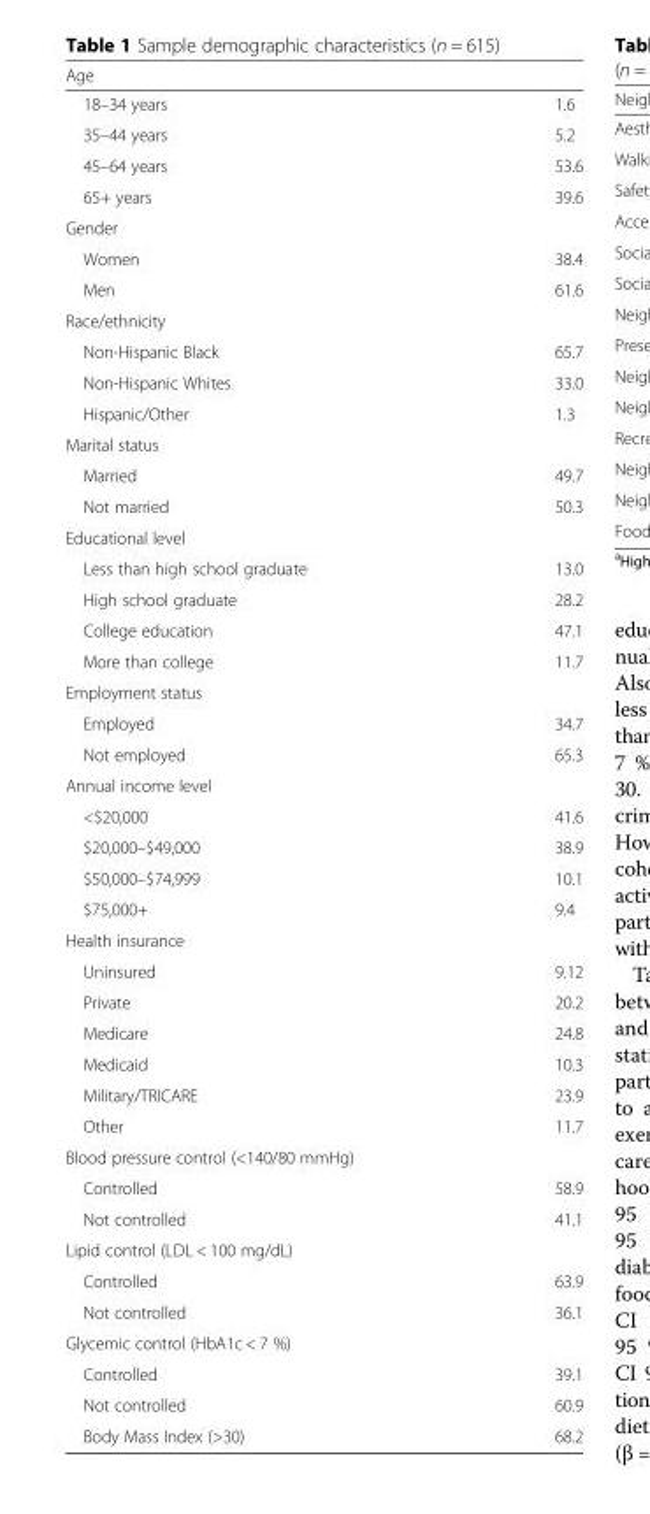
<table><thead><tr><td>Age</td><td></td></tr></thead><tbody><tr><td>18–34 years</td><td>1.6</td></tr><tr><td>35–44 years</td><td>5.2</td></tr><tr><td>45–64 years</td><td>53.6</td></tr><tr><td>65+ years</td><td>39.6</td></tr><tr><td colspan="2">Gender</td></tr><tr><td>Women</td><td>38.4</td></tr><tr><td>Men</td><td>61.6</td></tr><tr><td colspan="2">Race/ethnicity</td></tr><tr><td>Non-Hispanic Black</td><td>65.7</td></tr><tr><td>Non-Hispanic Whites</td><td>33.0</td></tr><tr><td>Hispanic/Other</td><td>1.3</td></tr><tr><td colspan="2">Marital status</td></tr><tr><td>Married</td><td>49.7</td></tr><tr><td>Not married</td><td>50.3</td></tr><tr><td colspan="2">Educational level</td></tr><tr><td>Less than high school graduate</td><td>13.0</td></tr><tr><td>High school graduate</td><td>28.2</td></tr><tr><td>College education</td><td>47.1</td></tr><tr><td>More than college</td><td>11.7</td></tr><tr><td colspan="2">Employment status</td></tr><tr><td>Employed</td><td>34.7</td></tr><tr><td>Not employed</td><td>65.3</td></tr><tr><td colspan="2">Annual income level</td></tr><tr><td>&lt;$20,000</td><td>41.6</td></tr><tr><td>$20,000–$49,000</td><td>38.9</td></tr><tr><td>$50,000–$74,999</td><td>10.1</td></tr><tr><td>$75,000+</td><td>9.4</td></tr><tr><td colspan="2">Health insurance</td></tr><tr><td>Uninsured</td><td>9.12</td></tr><tr><td>Private</td><td>20.2</td></tr><tr><td>Medicare</td><td>24.8</td></tr><tr><td>Medicaid</td><td>10.3</td></tr><tr><td>Military/TRICARE</td><td>23.9</td></tr><tr><td>Other</td><td>11.7</td></tr><tr><td colspan="2">Blood pressure control (&lt;140/80 mmHg)</td></tr><tr><td>Controlled</td><td>58.9</td></tr><tr><td>Not controlled</td><td>41.1</td></tr><tr><td colspan="2">Lipid control (LDL &lt; 100 mg/dL)</td></tr><tr><td>Controlled</td><td>63.9</td></tr><tr><td>Not controlled</td><td>36.1</td></tr><tr><td colspan="2">Glycemic control (HbA1c &lt; 7 %)</td></tr><tr><td>Controlled</td><td>39.1</td></tr><tr><td>Not controlled</td><td>60.9</td></tr><tr><td>Body Mass Index (&gt;30)</td><td>68.2</td></tr></tbody></table>